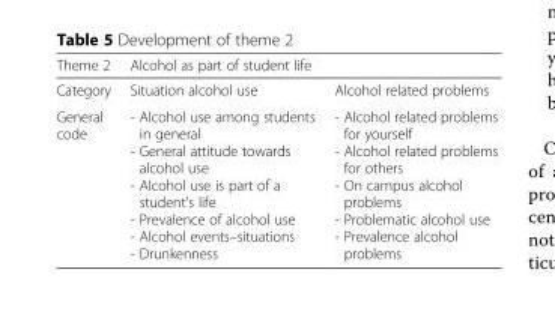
<table><thead><tr><td rowspan="2">Theme 2 Category</td><td colspan="2">Alcohol as part of student life</td></tr><tr><td>Situation alcohol use</td><td>Alcohol related problems</td></tr></thead><tbody><tr><td>General code</td><td>- Alcohol use among students in general - General attitude towards alcohol use - Alcohol use is part of a student’s life - Prevalence of alcohol use - Alcohol events–situations - Drunkenness</td><td>- Alcohol related problems for yourself - Alcohol related problems for others - On campus alcohol problems - Problematic alcohol use - Prevalence alcohol problems</td></tr></tbody></table>